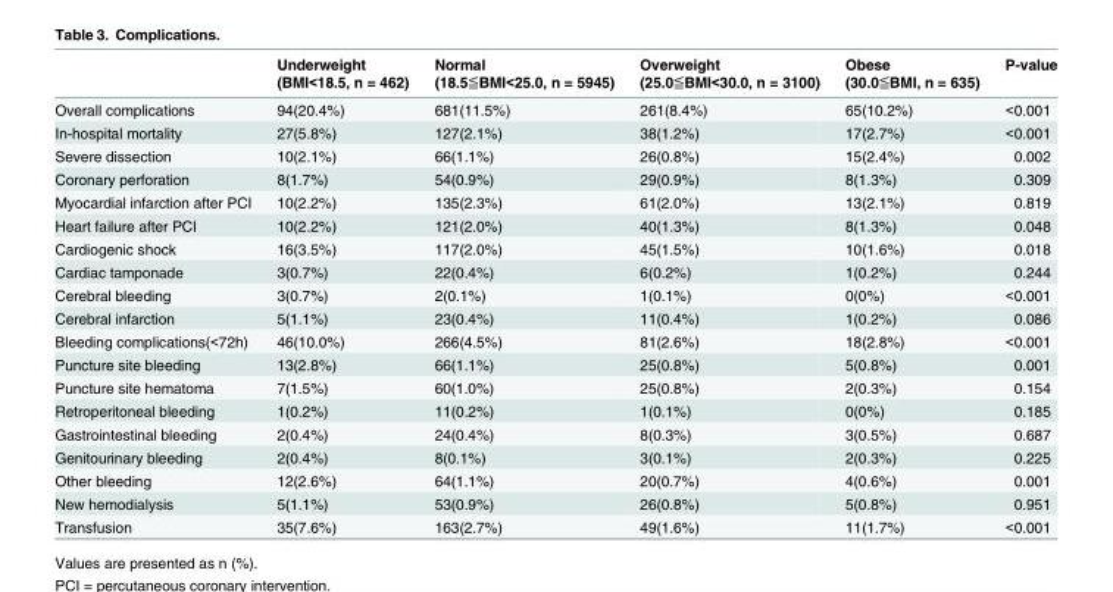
<table><thead><tr><td></td><td>Underweight (BMI&lt;18.5, n = 462)</td><td>Normal (18.5≦BMI&lt;25.0, n = 5945)</td><td>Overweight (25.0≦BMI&lt;30.0, n = 3100)</td><td>Obese (30.0≦BMI, n = 635)</td><td>P-value</td></tr></thead><tbody><tr><td>Overall complications</td><td>94(20.4%)</td><td>681(11.5%)</td><td>261(8.4%)</td><td>65(10.2%)</td><td>&lt;0.001</td></tr><tr><td>In-hospital mortality</td><td>27(5.8%)</td><td>127(2.1%)</td><td>38(1.2%)</td><td>17(2.7%)</td><td>&lt;0.001</td></tr><tr><td>Severe dissection</td><td>10(2.1%)</td><td>66(1.1%)</td><td>26(0.8%)</td><td>15(2.4%)</td><td>0.002</td></tr><tr><td>Coronary perforation</td><td>8(1.7%)</td><td>54(0.9%)</td><td>29(0.9%)</td><td>8(1.3%)</td><td>0.309</td></tr><tr><td>Myocardial infarction after PCI</td><td>10(2.2%)</td><td>135(2.3%)</td><td>61(2.0%)</td><td>13(2.1%)</td><td>0.819</td></tr><tr><td>Heart failure after PCI</td><td>10(2.2%)</td><td>121(2.0%)</td><td>40(1.3%)</td><td>8(1.3%)</td><td>0.048</td></tr><tr><td>Cardiogenic shock</td><td>16(3.5%)</td><td>117(2.0%)</td><td>45(1.5%)</td><td>10(1.6%)</td><td>0.018</td></tr><tr><td>Cardiac tamponade</td><td>3(0.7%)</td><td>22(0.4%)</td><td>6(0.2%)</td><td>1(0.2%)</td><td>0.244</td></tr><tr><td>Cerebral bleeding</td><td>3(0.7%)</td><td>2(0.1%)</td><td>1(0.1%)</td><td>0(0%)</td><td>&lt;0.001</td></tr><tr><td>Cerebral infarction</td><td>5(1.1%)</td><td>23(0.4%)</td><td>11(0.4%)</td><td>1(0.2%)</td><td>0.086</td></tr><tr><td>Bleeding complications(&lt;72h)</td><td>46(10.0%)</td><td>266(4.5%)</td><td>81(2.6%)</td><td>18(2.8%)</td><td>&lt;0.001</td></tr><tr><td>Puncture site bleeding</td><td>13(2.8%)</td><td>66(1.1%)</td><td>25(0.8%)</td><td>5(0.8%)</td><td>0.001</td></tr><tr><td>Puncture site hematoma</td><td>7(1.5%)</td><td>60(1.0%)</td><td>25(0.8%)</td><td>2(0.3%)</td><td>0.154</td></tr><tr><td>Retroperitoneal bleeding</td><td>1(0.2%)</td><td>11(0.2%)</td><td>1(0.1%)</td><td>0(0%)</td><td>0.185</td></tr><tr><td>Gastrointestinal bleeding</td><td>2(0.4%)</td><td>24(0.4%)</td><td>8(0.3%)</td><td>3(0.5%)</td><td>0.687</td></tr><tr><td>Genitourinary bleeding</td><td>2(0.4%)</td><td>8(0.1%)</td><td>3(0.1%)</td><td>2(0.3%)</td><td>0.225</td></tr><tr><td>Other bleeding</td><td>12(2.6%)</td><td>64(1.1%)</td><td>20(0.7%)</td><td>4(0.6%)</td><td>0.001</td></tr><tr><td>New hemodialysis</td><td>5(1.1%)</td><td>53(0.9%)</td><td>26(0.8%)</td><td>5(0.8%)</td><td>0.951</td></tr><tr><td>Transfusion</td><td>35(7.6%)</td><td>163(2.7%)</td><td>49(1.6%)</td><td>11(1.7%)</td><td>&lt;0.001</td></tr></tbody></table>